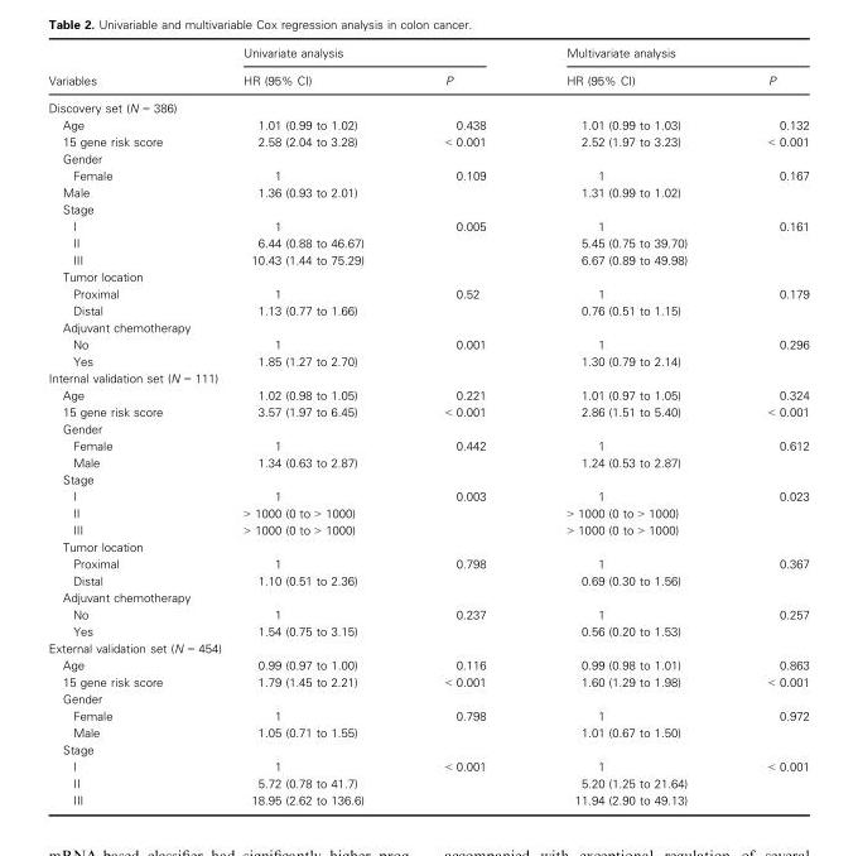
<table><thead><tr><td rowspan="2">Variables</td><td colspan="2">Univariate analysis</td><td colspan="2">Multivariate analysis</td></tr><tr><td>HR (95% CI)</td><td>P</td><td>HR (95% CI)</td><td>P</td></tr></thead><tbody><tr><td colspan="5">Discovery set (N = 386)</td></tr><tr><td>Age</td><td>1.01 (0.99 to 1.02)</td><td>0.438</td><td>1.01 (0.99 to 1.03)</td><td>0.132</td></tr><tr><td>15 gene risk score</td><td>2.58 (2.04 to 3.28)</td><td>&lt; 0.001</td><td>2.52 (1.97 to 3.23)</td><td>&lt; 0.001</td></tr><tr><td colspan="5">Gender</td></tr><tr><td>Female</td><td>1</td><td>0.109</td><td>1</td><td rowspan="2">0.167</td></tr><tr><td>Male</td><td>1.36 (0.93 to 2.01)</td><td></td><td>1.31 (0.99 to 1.02)</td></tr><tr><td colspan="5">Stage</td></tr><tr><td>I</td><td>1</td><td rowspan="3">0.005</td><td>1</td><td rowspan="3">0.161</td></tr><tr><td>II</td><td>6.44 (0.88 to 46.67)</td><td>5.45 (0.75 to 39.70)</td></tr><tr><td>III</td><td>10.43 (1.44 to 75.29)</td><td>6.67 (0.89 to 49.98)</td></tr><tr><td colspan="5">Tumor location</td></tr><tr><td>Proximal</td><td>1</td><td rowspan="2">0.52</td><td>1</td><td rowspan="2">0.179</td></tr><tr><td>Distal</td><td>1.13 (0.77 to 1.66)</td><td>0.76 (0.51 to 1.15)</td></tr><tr><td colspan="5">Adjuvant chemotherapy</td></tr><tr><td>No</td><td>1</td><td rowspan="2">0.001</td><td>1</td><td rowspan="2">0.296</td></tr><tr><td>Yes</td><td>1.85 (1.27 to 2.70)</td><td>1.30 (0.79 to 2.14)</td></tr><tr><td colspan="5">Internal validation set (N = 111)</td></tr><tr><td>Age</td><td>1.02 (0.98 to 1.05)</td><td>0.221</td><td>1.01 (0.97 to 1.05)</td><td>0.324</td></tr><tr><td>15 gene risk score</td><td>3.57 (1.97 to 6.45)</td><td>&lt; 0.001</td><td>2.86 (1.51 to 5.40)</td><td>&lt; 0.001</td></tr><tr><td colspan="5">Gender</td></tr><tr><td>Female</td><td>1</td><td rowspan="2">0.442</td><td>1</td><td rowspan="2">0.612</td></tr><tr><td>Male</td><td>1.34 (0.63 to 2.87)</td><td>1.24 (0.53 to 2.87)</td></tr><tr><td colspan="5">Stage</td></tr><tr><td>I</td><td>1</td><td rowspan="3">0.003</td><td>1</td><td rowspan="3">0.023</td></tr><tr><td>II</td><td>&gt; 1000 (0 to &gt; 1000)</td><td>&gt; 1000 (0 to &gt; 1000)</td></tr><tr><td>III</td><td>&gt; 1000 (0 to &gt; 1000)</td><td>&gt; 1000 (0 to &gt; 1000)</td></tr><tr><td colspan="5">Tumor location</td></tr><tr><td>Proximal</td><td>1</td><td rowspan="2">0.798</td><td>1</td><td rowspan="2">0.367</td></tr><tr><td>Distal</td><td>1.10 (0.51 to 2.36)</td><td>0.69 (0.30 to 1.56)</td></tr><tr><td colspan="5">Adjuvant chemotherapy</td></tr><tr><td>No</td><td>1</td><td rowspan="2">0.237</td><td>1</td><td rowspan="2">0.257</td></tr><tr><td>Yes</td><td>1.54 (0.75 to 3.15)</td><td>0.56 (0.20 to 1.53)</td></tr><tr><td colspan="5">External validation set (N = 454)</td></tr><tr><td>Age</td><td>0.99 (0.97 to 1.00)</td><td>0.116</td><td>0.99 (0.98 to 1.01)</td><td>0.863</td></tr><tr><td>15 gene risk score</td><td>1.79 (1.45 to 2.21)</td><td>&lt; 0.001</td><td>1.60 (1.29 to 1.98)</td><td>&lt; 0.001</td></tr><tr><td colspan="5">Gender</td></tr><tr><td>Female</td><td>1</td><td rowspan="2">0.798</td><td>1</td><td rowspan="2">0.972</td></tr><tr><td>Male</td><td>1.05 (0.71 to 1.55)</td><td>1.01 (0.67 to 1.50)</td></tr><tr><td colspan="5">Stage</td></tr><tr><td>I</td><td>1</td><td rowspan="3">&lt; 0.001</td><td>1</td><td rowspan="3">&lt; 0.001</td></tr><tr><td>II</td><td>5.72 (0.78 to 41.7)</td><td>5.20 (1.25 to 21.64)</td></tr><tr><td>III</td><td>18.95 (2.62 to 136.6)</td><td>11.94 (2.90 to 49.13)</td></tr></tbody></table>